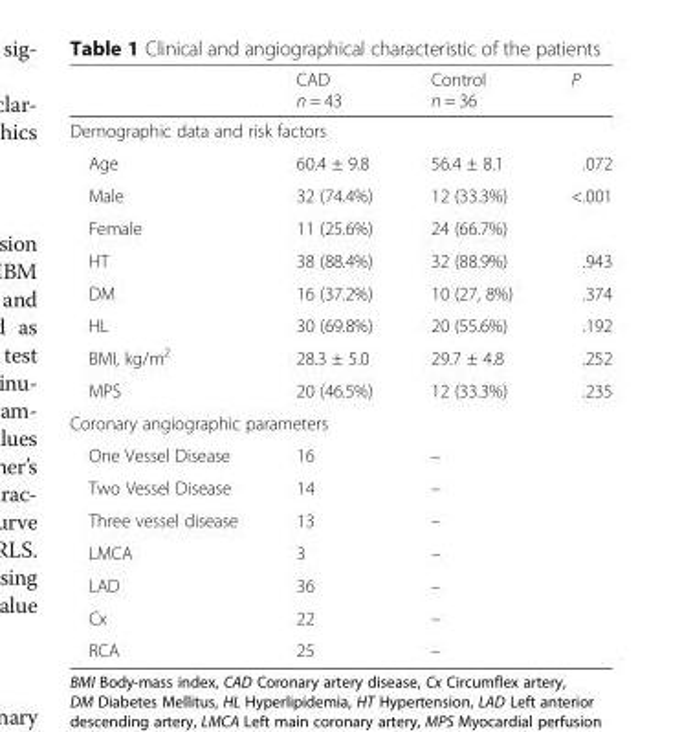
<table><thead><tr><td></td><td>CAD n = 43</td><td>Control n = 36</td><td>P</td></tr></thead><tbody><tr><td colspan="4">Demographic data and risk factors</td></tr><tr><td>Age</td><td>60.4 ± 9.8</td><td>56.4 ± 8.1</td><td>.072</td></tr><tr><td>Male</td><td>32 (74.4%)</td><td>12 (33.3%)</td><td rowspan="2">&lt;.001</td></tr><tr><td>Female</td><td>11 (25.6%)</td><td>24 (66.7%)</td></tr><tr><td>HT</td><td>38 (88.4%)</td><td>32 (88.9%)</td><td>.943</td></tr><tr><td>DM</td><td>16 (37.2%)</td><td>10 (27, 8%)</td><td>.374</td></tr><tr><td>HL</td><td>30 (69.8%)</td><td>20 (55.6%)</td><td>.192</td></tr><tr><td>BMI, kg/m<sup>2</sup></td><td>28.3 ± 5.0</td><td>29.7 ± 4.8</td><td>.252</td></tr><tr><td>MPS</td><td>20 (46.5%)</td><td>12 (33.3%)</td><td>.235</td></tr><tr><td colspan="4">Coronary angiographic parameters</td></tr><tr><td>One Vessel Disease</td><td>16</td><td>–</td><td rowspan="7"></td></tr><tr><td>Two Vessel Disease</td><td>14</td><td>–</td></tr><tr><td>Three vessel disease</td><td>13</td><td>–</td></tr><tr><td>LMCA</td><td>3</td><td>–</td></tr><tr><td>LAD</td><td>36</td><td>–</td></tr><tr><td>Cx</td><td>22</td><td>–</td></tr><tr><td>RCA</td><td>25</td><td>–</td></tr></tbody></table>